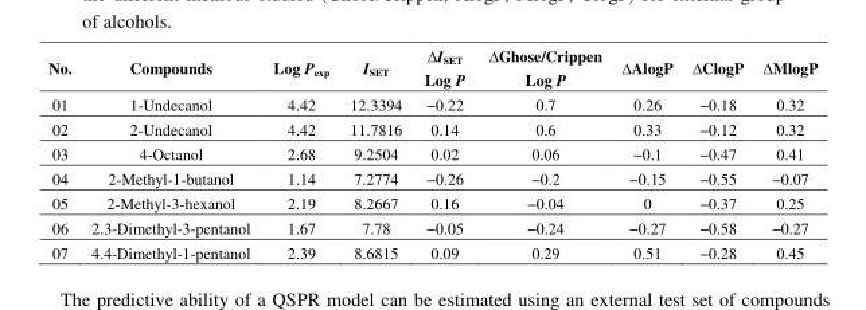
<table><thead><tr><td>No.</td><td>Compounds</td><td>Log P<sub>exp</sub></td><td>I<sub>SET</sub></td><td>∆ISET Log P</td><td>∆Ghose/Crippen Log P</td><td>∆AlogP</td><td>∆ClogP</td><td>∆MlogP</td></tr></thead><tbody><tr><td>01</td><td>1-Undecanol</td><td>4.42</td><td>12.3394</td><td>−0.22</td><td>0.7</td><td>0.26</td><td>−0.18</td><td>0.32</td></tr><tr><td>02</td><td>2-Undecanol</td><td>4.42</td><td>11.7816</td><td>0.14</td><td>0.6</td><td>0.33</td><td>−0.12</td><td>0.32</td></tr><tr><td>03</td><td>4-Octanol</td><td>2.68</td><td>9.2504</td><td>0.02</td><td>0.06</td><td>−0.1</td><td>−0.47</td><td>0.41</td></tr><tr><td>04</td><td>2-Methyl-1-butanol</td><td>1.14</td><td>7.2774</td><td>−0.26</td><td>−0.2</td><td>−0.15</td><td>−0.55</td><td>−0.07</td></tr><tr><td>05</td><td>2-Methyl-3-hexanol</td><td>2.19</td><td>8.2667</td><td>0.16</td><td>−0.04</td><td>0</td><td>−0.37</td><td>0.25</td></tr><tr><td>06</td><td>2.3-Dimethyl-3-pentanol</td><td>1.67</td><td>7.78</td><td>−0.05</td><td>−0.24</td><td>−0.27</td><td>−0.58</td><td>−0.27</td></tr><tr><td>07</td><td>4.4-Dimethyl-1-pentanol</td><td>2.39</td><td>8.6815</td><td>0.09</td><td>0.29</td><td>0.51</td><td>−0.28</td><td>0.45</td></tr></tbody></table>